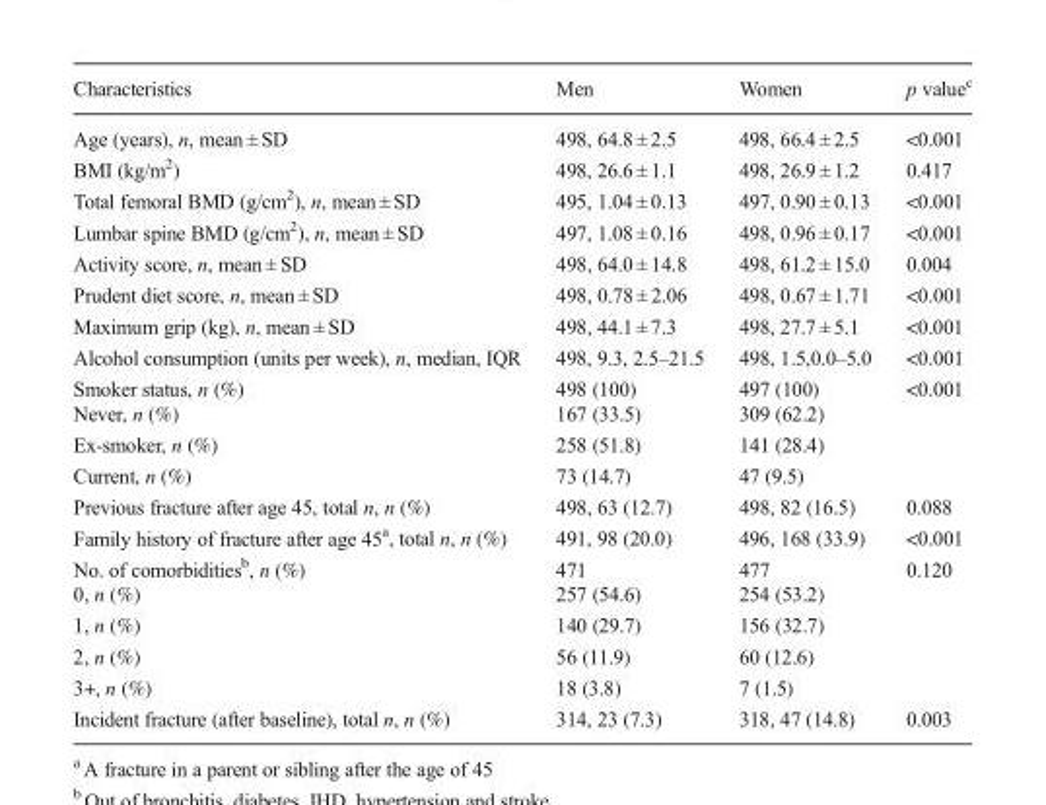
<table><thead><tr><td>Characteristics</td><td>Men</td><td>Women</td><td>p value<sup>c</sup></td></tr></thead><tbody><tr><td>Age (years), n, mean ± SD</td><td>498, 64.8 ± 2.5</td><td>498, 66.4 ± 2.5</td><td>&lt;0.001</td></tr><tr><td>BMI (kg/m<sup>2</sup>)</td><td>498, 26.6 ± 1.1</td><td>498, 26.9 ± 1.2</td><td>0.417</td></tr><tr><td>Total femoral BMD (g/cm<sup>2</sup>), n, mean ± SD</td><td>495, 1.04 ± 0.13</td><td>497, 0.90 ± 0.13</td><td>&lt;0.001</td></tr><tr><td>Lumbar spine BMD (g/cm<sup>2</sup>), n, mean ± SD</td><td>497, 1.08 ± 0.16</td><td>498, 0.96 ± 0.17</td><td>&lt;0.001</td></tr><tr><td>Activity score, n, mean ± SD</td><td>498, 64.0 ± 14.8</td><td>498, 61.2 ± 15.0</td><td>0.004</td></tr><tr><td>Prudent diet score, n, mean ± SD</td><td>498, 0.78 ± 2.06</td><td>498, 0.67 ± 1.71</td><td>&lt;0.001</td></tr><tr><td>Maximum grip (kg), n, mean ± SD</td><td>498, 44.1 ± 7.3</td><td>498, 27.7 ± 5.1</td><td>&lt;0.001</td></tr><tr><td>Alcohol consumption (units per week), n, median, IQR</td><td>498, 9.3, 2.5–21.5</td><td>498, 1.5,0.0–5.0</td><td>&lt;0.001</td></tr><tr><td>Smoker status, n (%)</td><td>498 (100)</td><td>497 (100)</td><td rowspan="4">&lt;0.001</td></tr><tr><td>Never, n (%)</td><td>167 (33.5)</td><td>309 (62.2)</td></tr><tr><td>Ex-smoker, n (%)</td><td>258 (51.8)</td><td>141 (28.4)</td></tr><tr><td>Current, n (%)</td><td>73 (14.7)</td><td>47 (9.5)</td></tr><tr><td>Previous fracture after age 45, total n, n (%)</td><td>498, 63 (12.7)</td><td>498, 82 (16.5)</td><td>0.088</td></tr><tr><td>Family history of fracture after age 45<sup>a</sup>, total n, n (%)</td><td>491, 98 (20.0)</td><td>496, 168 (33.9)</td><td>&lt;0.001</td></tr><tr><td>No. of comorbidities<sup>b</sup>, n (%)</td><td>471</td><td>477</td><td rowspan="5">0.120</td></tr><tr><td>0, n (%)</td><td>257 (54.6)</td><td>254 (53.2)</td></tr><tr><td>1, n (%)</td><td>140 (29.7)</td><td>156 (32.7)</td></tr><tr><td>2, n (%)</td><td>56 (11.9)</td><td>60 (12.6)</td></tr><tr><td>3+, n (%)</td><td>18 (3.8)</td><td>7 (1.5)</td></tr><tr><td>Incident fracture (after baseline), total n, n (%)</td><td>314, 23 (7.3)</td><td>318, 47 (14.8)</td><td>0.003</td></tr></tbody></table>